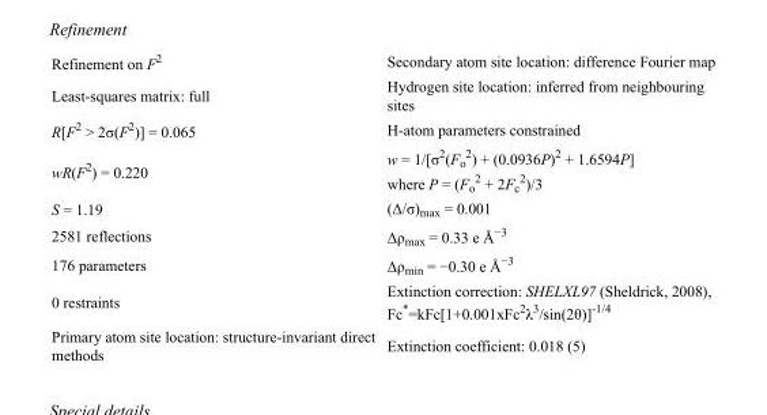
<table><tbody><tr><td>Refinement on F<sup>2</sup></td><td>Secondary atom site location: difference Fourier map</td></tr><tr><td>Least-squares matrix: full</td><td>Hydrogen site location: inferred from neighbouring sites</td></tr><tr><td>R[F<sup>2</sup> &gt; 2σ(F<sup>2</sup>)] = 0.065</td><td>H-atom parameters constrained</td></tr><tr><td>wR(F<sup>2</sup>) = 0.220</td><td>w = 1/[σ<sup>2</sup>(F<sub>o</sub> <sup>2</sup>) + (0.0936P)<sup>2</sup> + 1.6594P] where P = (F<sub>o</sub> <sup>2</sup> + 2F<sub>c</sub> <sup>2</sup>)/3</td></tr><tr><td>S = 1.19</td><td>(Δ/σ)<sub>max</sub> = 0.001</td></tr><tr><td>2581 reflections</td><td>Δρ<sub>max</sub> = 0.33 e Å<sup>−3</sup></td></tr><tr><td>176 parameters</td><td>Δρ<sub>min</sub> = −0.30 e Å<sup>−3</sup></td></tr><tr><td>0 restraints</td><td>Extinction correction: SHELXL97 (Sheldrick, 2008), Fc*=kFc[1+0.001xFc<sup>2</sup>λ<sup>3</sup>/sin(2θ)]<sup>-1/4</sup></td></tr><tr><td>Primary atom site location: structure-invariant direct methods</td><td>Extinction coefficient: 0.018 (5)</td></tr></tbody></table>